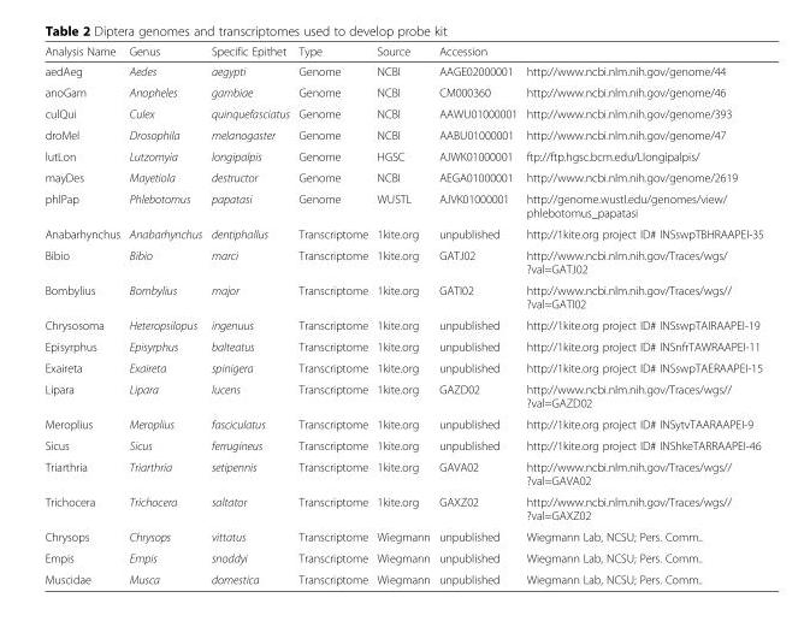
<table><thead><tr><td>Analysis Name</td><td>Genus</td><td>Specific Epithet</td><td>Type</td><td>Source</td><td>Accession</td><td></td></tr></thead><tbody><tr><td>aedAeg</td><td>Aedes</td><td>aegypti</td><td>Genome</td><td>NCBI</td><td>AAGE02000001</td><td>http://www.ncbi.nlm.nih.gov/genome/44</td></tr><tr><td>anoGam</td><td>Anopheles</td><td>gambiae</td><td>Genome</td><td>NCBI</td><td>CM000360</td><td>http://www.ncbi.nlm.nih.gov/genome/46</td></tr><tr><td>culQui</td><td>Culex</td><td>quinquefasciatus</td><td>Genome</td><td>NCBI</td><td>AAWU01000001</td><td>http://www.ncbi.nlm.nih.gov/genome/393</td></tr><tr><td>droMel</td><td>Drosophila</td><td>melanogaster</td><td>Genome</td><td>NCBI</td><td>AABU01000001</td><td>http://www.ncbi.nlm.nih.gov/genome/47</td></tr><tr><td>lutLon</td><td>Lutzomyia</td><td>longipalpis</td><td>Genome</td><td>HGSC</td><td>AJWK01000001</td><td>ftp://ftp.hgsc.bcm.edu/Llongipalpis/</td></tr><tr><td>mayDes</td><td>Mayetiola</td><td>destructor</td><td>Genome</td><td>NCBI</td><td>AEGA01000001</td><td>http://www.ncbi.nlm.nih.gov/genome/2619</td></tr><tr><td>phlPap</td><td>Phlebotomus</td><td>papatasi</td><td>Genome</td><td>WUSTL</td><td>AJVK01000001</td><td>http://genome.wustl.edu/genomes/view/ phlebotomus_papatasi</td></tr><tr><td>Anabarhynchus</td><td>Anabarhynchus</td><td>dentiphallus</td><td>Transcriptome</td><td>1kite.org</td><td>unpublished</td><td>http://1kite.org project ID# INSswpTBHRAAPEI-35</td></tr><tr><td>Bibio</td><td>Bibio</td><td>marci</td><td>Transcriptome</td><td>1kite.org</td><td>GATJ02</td><td>http://www.ncbi.nlm.nih.gov/Traces/wgs/ ?val=GATJ02</td></tr><tr><td>Bombylius</td><td>Bombylius</td><td>major</td><td>Transcriptome</td><td>1kite.org</td><td>GATI02</td><td>http://www.ncbi.nlm.nih.gov/Traces/wgs// ?val=GATI02</td></tr><tr><td>Chrysosoma</td><td>Heteropsilopus</td><td>ingenuus</td><td>Transcriptome</td><td>1kite.org</td><td>unpublished</td><td>http://1kite.org project ID# INSswpTAIRAAPEI-19</td></tr><tr><td>Episyrphus</td><td>Episyrphus</td><td>balteatus</td><td>Transcriptome</td><td>1kite.org</td><td>unpublished</td><td>http://1kite.org project ID# INSnfrTAWRAAPEI-11</td></tr><tr><td>Exaireta</td><td>Exaireta</td><td>spinigera</td><td>Transcriptome</td><td>1kite.org</td><td>unpublished</td><td>http://1kite.org project ID# INSswpTAERAAPEI-15</td></tr><tr><td>Lipara</td><td>Lipara</td><td>lucens</td><td>Transcriptome</td><td>1kite.org</td><td>GAZD02</td><td>http://www.ncbi.nlm.nih.gov/Traces/wgs// ?val=GAZD02</td></tr><tr><td>Meroplius</td><td>Meroplius</td><td>fasciculatus</td><td>Transcriptome</td><td>1kite.org</td><td>unpublished</td><td>http://1kite.org project ID# INSytvTAARAAPEI-9</td></tr><tr><td>Sicus</td><td>Sicus</td><td>ferrugineus</td><td>Transcriptome</td><td>1kite.org</td><td>unpublished</td><td>http://1kite.org project ID# INShkeTARRAAPEI-46</td></tr><tr><td>Triarthria</td><td>Triarthria</td><td>setipennis</td><td>Transcriptome</td><td>1kite.org</td><td>GAVA02</td><td>http://www.ncbi.nlm.nih.gov/Traces/wgs// ?val=GAVA02</td></tr><tr><td>Trichocera</td><td>Trichocera</td><td>saltator</td><td>Transcriptome</td><td>1kite.org</td><td>GAXZ02</td><td>http://www.ncbi.nlm.nih.gov/Traces/wgs// ?val=GAXZ02</td></tr><tr><td>Chrysops</td><td>Chrysops</td><td>vittatus</td><td>Transcriptome</td><td>Wiegmann</td><td>unpublished</td><td>Wiegmann Lab, NCSU; Pers. Comm..</td></tr><tr><td>Empis</td><td>Empis</td><td>snoddyi</td><td>Transcriptome</td><td>Wiegmann</td><td>unpublished</td><td>Wiegmann Lab, NCSU; Pers. Comm..</td></tr><tr><td>Muscidae</td><td>Musca</td><td>domestica</td><td>Transcriptome</td><td>Wiegmann</td><td>unpublished</td><td>Wiegmann Lab, NCSU; Pers. Comm..</td></tr></tbody></table>